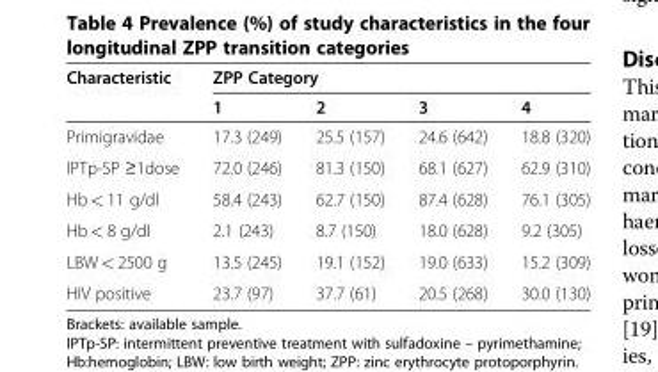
<table><thead><tr><td rowspan="2">Characteristic</td><td colspan="4">ZPP Category</td></tr><tr><td>1</td><td>2</td><td>3</td><td>4</td></tr></thead><tbody><tr><td>Primigravidae</td><td>17.3 (249)</td><td>25.5 (157)</td><td>24.6 (642)</td><td>18.8 (320)</td></tr><tr><td>IPTp-SP ≥1dose</td><td>72.0 (246)</td><td>81.3 (150)</td><td>68.1 (627)</td><td>62.9 (310)</td></tr><tr><td>Hb &lt; 11 g/dl</td><td>58.4 (243)</td><td>62.7 (150)</td><td>87.4 (628)</td><td>76.1 (305)</td></tr><tr><td>Hb &lt; 8 g/dl</td><td>2.1 (243)</td><td>8.7 (150)</td><td>18.0 (628)</td><td>9.2 (305)</td></tr><tr><td>LBW &lt; 2500 g</td><td>13.5 (245)</td><td>19.1 (152)</td><td>19.0 (633)</td><td>15.2 (309)</td></tr><tr><td>HIV positive</td><td>23.7 (97)</td><td>37.7 (61)</td><td>20.5 (268)</td><td>30.0 (130)</td></tr></tbody></table>